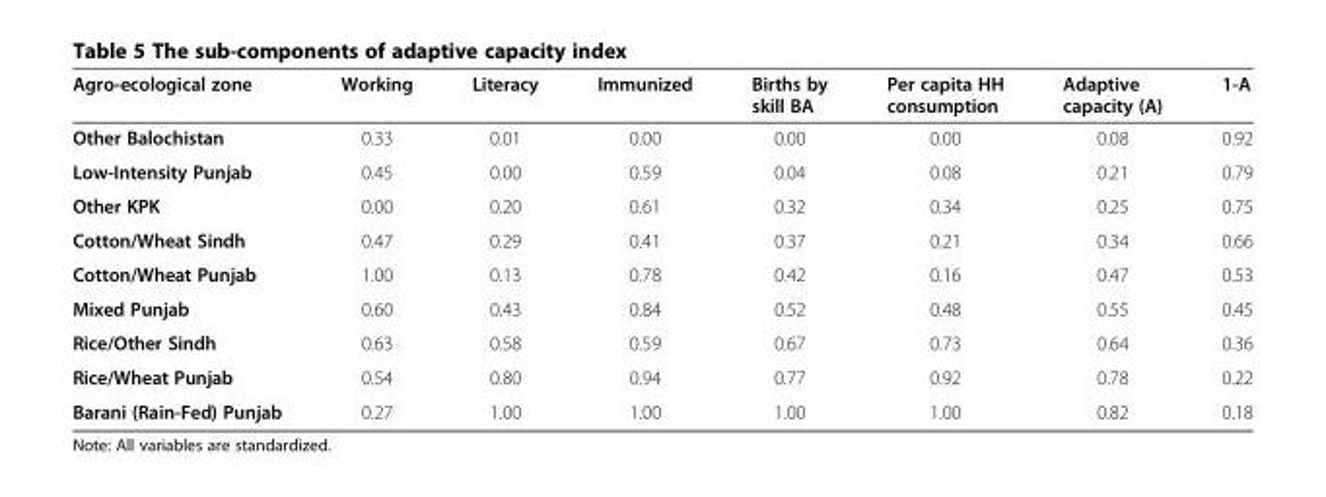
<table><thead><tr><td>Agro-ecological zone</td><td>Working</td><td>Literacy</td><td>Immunized</td><td>Births by skill BA</td><td>Per capita HH consumption</td><td>Adaptive capacity (A)</td><td>1-A</td></tr></thead><tbody><tr><td>Other Balochistan</td><td>0.33</td><td>0.01</td><td>0.00</td><td>0.00</td><td>0.00</td><td>0.08</td><td>0.92</td></tr><tr><td>Low-Intensity Punjab</td><td>0.45</td><td>0.00</td><td>0.59</td><td>0.04</td><td>0.08</td><td>0.21</td><td>0.79</td></tr><tr><td>Other KPK</td><td>0.00</td><td>0.20</td><td>0.61</td><td>0.32</td><td>0.34</td><td>0.25</td><td>0.75</td></tr><tr><td>Cotton/Wheat Sindh</td><td>0.47</td><td>0.29</td><td>0.41</td><td>0.37</td><td>0.21</td><td>0.34</td><td>0.66</td></tr><tr><td>Cotton/Wheat Punjab</td><td>1.00</td><td>0.13</td><td>0.78</td><td>0.42</td><td>0.16</td><td>0.47</td><td>0.53</td></tr><tr><td>Mixed Punjab</td><td>0.60</td><td>0.43</td><td>0.84</td><td>0.52</td><td>0.48</td><td>0.55</td><td>0.45</td></tr><tr><td>Rice/Other Sindh</td><td>0.63</td><td>0.58</td><td>0.59</td><td>0.67</td><td>0.73</td><td>0.64</td><td>0.36</td></tr><tr><td>Rice/Wheat Punjab</td><td>0.54</td><td>0.80</td><td>0.94</td><td>0.77</td><td>0.92</td><td>0.78</td><td>0.22</td></tr><tr><td>Barani (Rain-Fed) Punjab</td><td>0.27</td><td>1.00</td><td>1.00</td><td>1.00</td><td>1.00</td><td>0.82</td><td>0.18</td></tr></tbody></table>